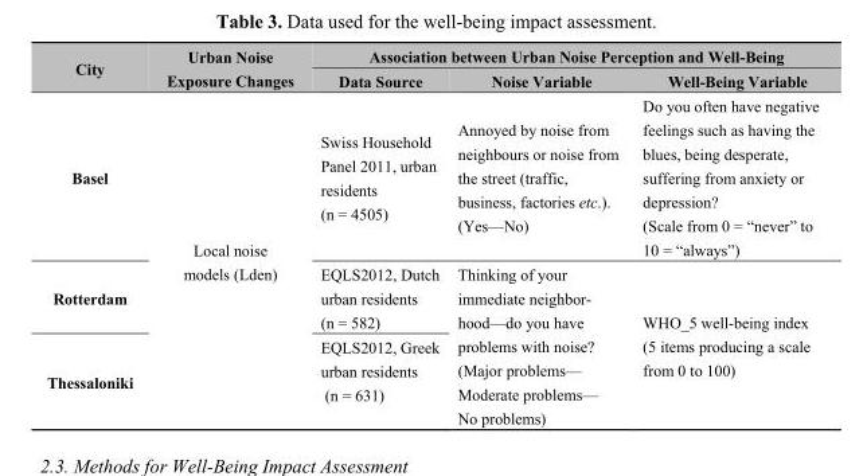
<table><thead><tr><td rowspan="2">City</td><td rowspan="2">Urban Noise Exposure Changes</td><td colspan="3">Association between Urban Noise Perception and Well-Being</td></tr><tr><td>Data Source</td><td>Noise Variable</td><td>Well-Being Variable</td></tr></thead><tbody><tr><td>Basel</td><td rowspan="3">Local noise models (Lden)</td><td>Swiss Household Panel 2011, urban residents (n = 4505)</td><td>Annoyed by noise from neighbours or noise from the street (traffic, business, factories etc.). (Yes—No)</td><td>Do you often have negative feelings such as having the blues, being desperate, suffering from anxiety or depression? (Scale from 0 = “never” to 10 = “always”)</td></tr><tr><td>Rotterdam</td><td>EQLS2012, Dutch urban residents (n = 582)</td><td rowspan="2">Thinking of your immediate neighbor- hood—do you have problems with noise? (Major problems— Moderate problems— No problems)</td><td rowspan="2">WHO_5 well-being index (5 items producing a scale from 0 to 100)</td></tr><tr><td>Thessaloniki</td><td>EQLS2012, Greek urban residents (n = 631)</td></tr></tbody></table>